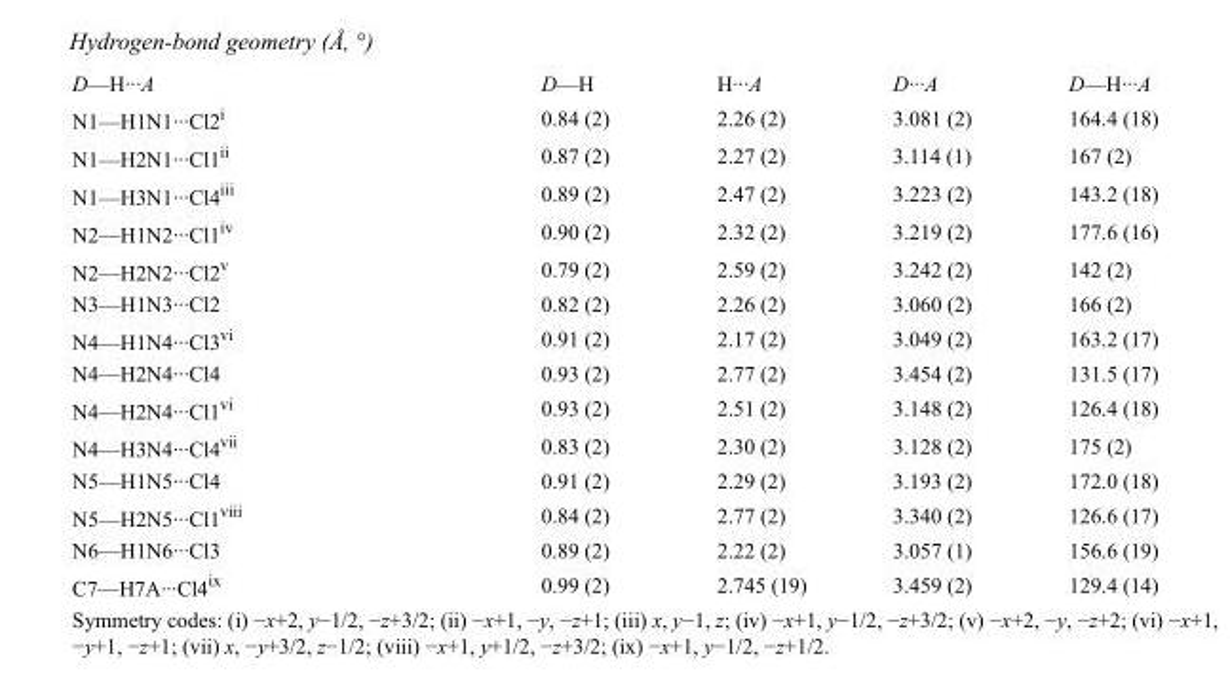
<table><tbody><tr><td>D—H···A</td><td>D—H</td><td>H···A</td><td>D···A</td><td>D—H···A</td></tr><tr><td>N1—H1N1···Cl2<sup>i</sup></td><td>0.84 (2)</td><td>2.26 (2)</td><td>3.081 (2)</td><td>164.4 (18)</td></tr><tr><td>N1—H2N1···Cl1<sup>ii</sup></td><td>0.87 (2)</td><td>2.27 (2)</td><td>3.114 (1)</td><td>167 (2)</td></tr><tr><td>N1—H3N1···Cl4<sup>iii</sup></td><td>0.89 (2)</td><td>2.47 (2)</td><td>3.223 (2)</td><td>143.2 (18)</td></tr><tr><td>N2—H1N2···Cl1<sup>iv</sup></td><td>0.90 (2)</td><td>2.32 (2)</td><td>3.219 (2)</td><td>177.6 (16)</td></tr><tr><td>N2—H2N2···Cl2<sup>v</sup></td><td>0.79 (2)</td><td>2.59 (2)</td><td>3.242 (2)</td><td>142 (2)</td></tr><tr><td>N3—H1N3···Cl2</td><td>0.82 (2)</td><td>2.26 (2)</td><td>3.060 (2)</td><td>166 (2)</td></tr><tr><td>N4—H1N4···Cl3<sup>vi</sup></td><td>0.91 (2)</td><td>2.17 (2)</td><td>3.049 (2)</td><td>163.2 (17)</td></tr><tr><td>N4—H2N4···Cl4</td><td>0.93 (2)</td><td>2.77 (2)</td><td>3.454 (2)</td><td>131.5 (17)</td></tr><tr><td>N4—H2N4···Cl1<sup>vi</sup></td><td>0.93 (2)</td><td>2.51 (2)</td><td>3.148 (2)</td><td>126.4 (18)</td></tr><tr><td>N4—H3N4···Cl4<sup>vii</sup></td><td>0.83 (2)</td><td>2.30 (2)</td><td>3.128 (2)</td><td>175 (2)</td></tr><tr><td>N5—H1N5···Cl4</td><td>0.91 (2)</td><td>2.29 (2)</td><td>3.193 (2)</td><td>172.0 (18)</td></tr><tr><td>N5—H2N5···Cl1<sup>viii</sup></td><td>0.84 (2)</td><td>2.77 (2)</td><td>3.340 (2)</td><td>126.6 (17)</td></tr><tr><td>N6—H1N6···Cl3</td><td>0.89 (2)</td><td>2.22 (2)</td><td>3.057 (1)</td><td>156.6 (19)</td></tr><tr><td>C7—H7A···Cl4<sup>ix</sup></td><td>0.99 (2)</td><td>2.745 (19)</td><td>3.459 (2)</td><td>129.4 (14)</td></tr></tbody></table>